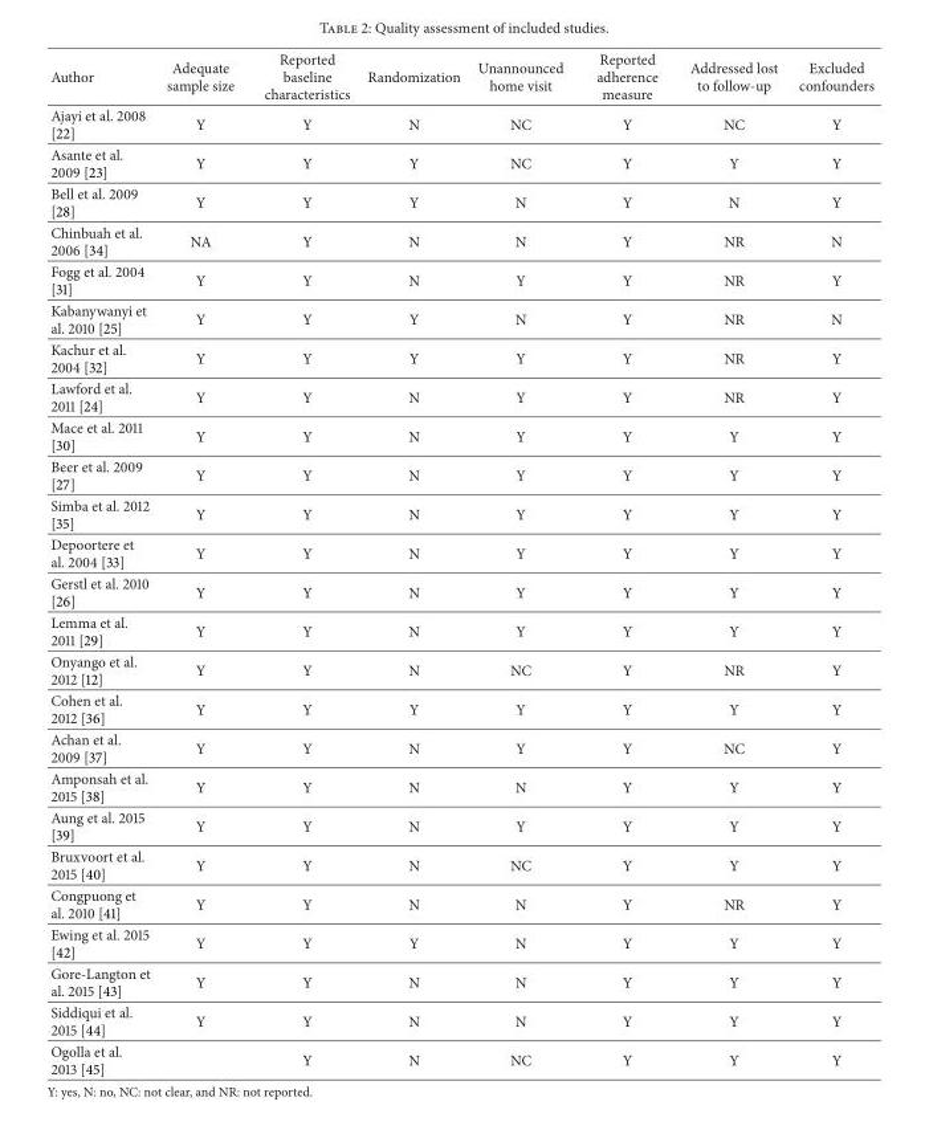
<table><thead><tr><td>Author</td><td>Adequate sample size</td><td>Reported baseline characteristics</td><td>Randomization</td><td>Unannounced home visit</td><td>Reported adherence measure</td><td>Addressed lost to follow-up</td><td>Excluded confounders</td></tr></thead><tbody><tr><td>Ajayi et al. 2008 [22]</td><td>Y</td><td>Y</td><td>N</td><td>NC</td><td>Y</td><td>NC</td><td>Y</td></tr><tr><td>Asante et al. 2009 [23]</td><td>Y</td><td>Y</td><td>Y</td><td>NC</td><td>Y</td><td>Y</td><td>Y</td></tr><tr><td>Bell et al. 2009 [28]</td><td>Y</td><td>Y</td><td>Y</td><td>N</td><td>Y</td><td>N</td><td>Y</td></tr><tr><td>Chinbuah et al. 2006 [34]</td><td>NA</td><td>Y</td><td>N</td><td>N</td><td>Y</td><td>NR</td><td>N</td></tr><tr><td>Fogg et al. 2004 [31]</td><td>Y</td><td>Y</td><td>N</td><td>Y</td><td>Y</td><td>NR</td><td>Y</td></tr><tr><td>Kabanywanyi et al. 2010 [25]</td><td>Y</td><td>Y</td><td>Y</td><td>N</td><td>Y</td><td>NR</td><td>N</td></tr><tr><td>Kachur et al. 2004 [32]</td><td>Y</td><td>Y</td><td>Y</td><td>Y</td><td>Y</td><td>NR</td><td>Y</td></tr><tr><td>Lawford et al. 2011 [24]</td><td>Y</td><td>Y</td><td>N</td><td>Y</td><td>Y</td><td>NR</td><td>Y</td></tr><tr><td>Mace et al. 2011 [30]</td><td>Y</td><td>Y</td><td>N</td><td>Y</td><td>Y</td><td>Y</td><td>Y</td></tr><tr><td>Beer et al. 2009 [27]</td><td>Y</td><td>Y</td><td>N</td><td>Y</td><td>Y</td><td>Y</td><td>Y</td></tr><tr><td>Simba et al. 2012 [35]</td><td>Y</td><td>Y</td><td>N</td><td>Y</td><td>Y</td><td>Y</td><td>Y</td></tr><tr><td>Depoortere et al. 2004 [33]</td><td>Y</td><td>Y</td><td>N</td><td>Y</td><td>Y</td><td>Y</td><td>Y</td></tr><tr><td>Gerstl et al. 2010 [26]</td><td>Y</td><td>Y</td><td>N</td><td>Y</td><td>Y</td><td>Y</td><td>Y</td></tr><tr><td>Lemma et al. 2011 [29]</td><td>Y</td><td>Y</td><td>N</td><td>Y</td><td>Y</td><td>Y</td><td>Y</td></tr><tr><td>Onyango et al. 2012 [12]</td><td>Y</td><td>Y</td><td>N</td><td>NC</td><td>Y</td><td>NR</td><td>Y</td></tr><tr><td>Cohen et al. 2012 [36]</td><td>Y</td><td>Y</td><td>Y</td><td>Y</td><td>Y</td><td>Y</td><td>Y</td></tr><tr><td>Achan et al. 2009 [37]</td><td>Y</td><td>Y</td><td>N</td><td>Y</td><td>Y</td><td>NC</td><td>Y</td></tr><tr><td>Amponsah et al. 2015 [38]</td><td>Y</td><td>Y</td><td>N</td><td>N</td><td>Y</td><td>Y</td><td>Y</td></tr><tr><td>Aung et al. 2015 [39]</td><td>Y</td><td>Y</td><td>N</td><td>Y</td><td>Y</td><td>Y</td><td>Y</td></tr><tr><td>Bruxvoort et al. 2015 [40]</td><td>Y</td><td>Y</td><td>N</td><td>NC</td><td>Y</td><td>Y</td><td>Y</td></tr><tr><td>Congpuong et al. 2010 [41]</td><td>Y</td><td>Y</td><td>N</td><td>N</td><td>Y</td><td>NR</td><td>Y</td></tr><tr><td>Ewing et al. 2015 [42]</td><td>Y</td><td>Y</td><td>Y</td><td>N</td><td>Y</td><td>Y</td><td>Y</td></tr><tr><td>Gore-Langton et al. 2015 [43]</td><td>Y</td><td>Y</td><td>N</td><td>N</td><td>Y</td><td>Y</td><td>Y</td></tr><tr><td>Siddiqui et al. 2015 [44]</td><td>Y</td><td>Y</td><td>N</td><td>N</td><td>Y</td><td>Y</td><td>Y</td></tr><tr><td>Ogolla et al. 2013 [45]</td><td></td><td>Y</td><td>N</td><td>NC</td><td>Y</td><td>Y</td><td>Y</td></tr></tbody></table>